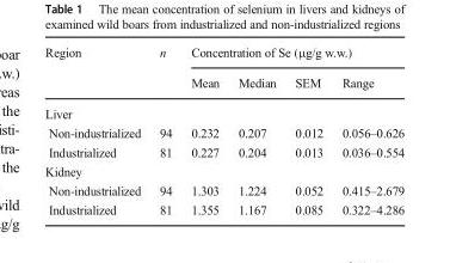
<table><thead><tr><td rowspan="2">Region</td><td rowspan="2">n</td><td colspan="4">Concentration of Se (μg/g w.w.)</td></tr><tr><td>Mean</td><td>Median</td><td>SEM</td><td>Range</td></tr></thead><tbody><tr><td colspan="6">Liver</td></tr><tr><td>Non-industrialized</td><td>94</td><td>0.232</td><td>0.207</td><td>0.012</td><td>0.056–0.626</td></tr><tr><td>Industrialized</td><td>81</td><td>0.227</td><td>0.204</td><td>0.013</td><td>0.036–0.554</td></tr><tr><td colspan="6">Kidney</td></tr><tr><td>Non-industrialized</td><td>94</td><td>1.303</td><td>1.224</td><td>0.052</td><td>0.415–2.679</td></tr><tr><td>Industrialized</td><td>81</td><td>1.355</td><td>1.167</td><td>0.085</td><td>0.322–4.286</td></tr></tbody></table>